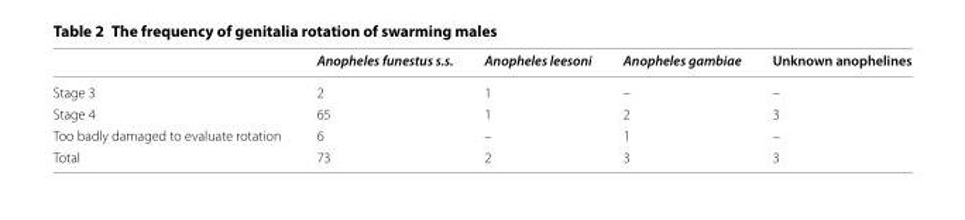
<table><thead><tr><td></td><td>Anopheles funestus s.s.</td><td>Anopheles leesoni</td><td>Anopheles gambiae</td><td>Unknown anophelines</td></tr></thead><tbody><tr><td>Stage 3</td><td>2</td><td>1</td><td>–</td><td>–</td></tr><tr><td>Stage 4</td><td>65</td><td>1</td><td>2</td><td>3</td></tr><tr><td>Too badly damaged to evaluate rotation</td><td>6</td><td>–</td><td>1</td><td>–</td></tr><tr><td>Total</td><td>73</td><td>2</td><td>3</td><td>3</td></tr></tbody></table>